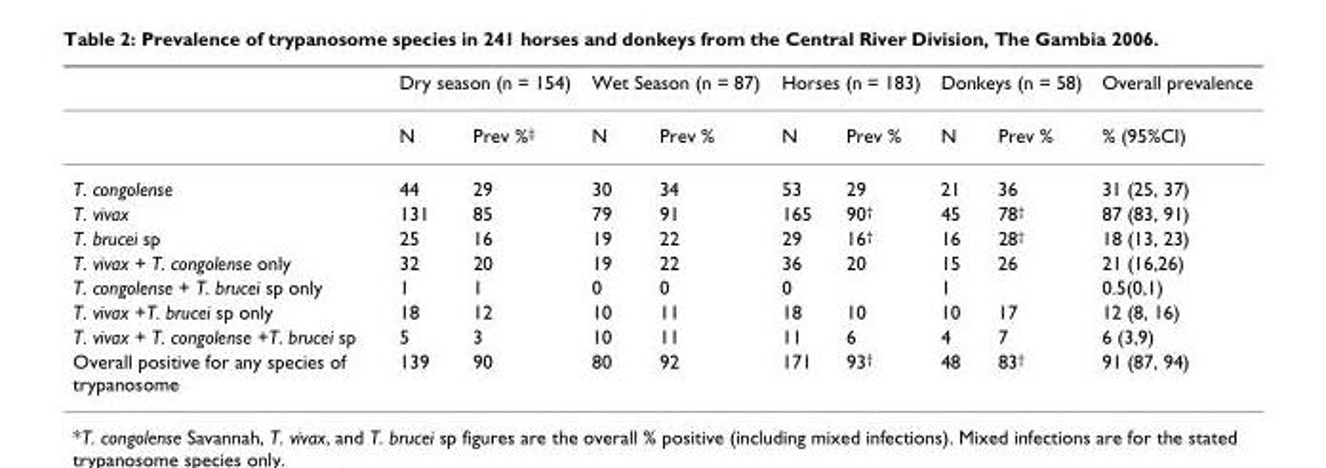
<table><thead><tr><td rowspan="2"></td><td colspan="2">Dry season (n = 154)</td><td colspan="2">Wet Season (n = 87)</td><td colspan="2">Horses (n = 183)</td><td colspan="2">Donkeys (n = 58)</td><td rowspan="2">Overall prevalence % (95%CI)</td></tr><tr><td>N</td><td>Prev %<sup>‡</sup></td><td>N</td><td>Prev %</td><td>N</td><td>Prev %</td><td>N</td><td>Prev %</td></tr></thead><tbody><tr><td>T. congolense</td><td>44</td><td>29</td><td>30</td><td>34</td><td>53</td><td>29</td><td>21</td><td>36</td><td>31 (25, 37)</td></tr><tr><td>T. vivax</td><td>131</td><td>85</td><td>79</td><td>91</td><td>165</td><td>90<sup>†</sup></td><td>45</td><td>78<sup>†</sup></td><td>87 (83, 91)</td></tr><tr><td>T. brucei sp</td><td>25</td><td>16</td><td>19</td><td>22</td><td>29</td><td>16<sup>†</sup></td><td>16</td><td>28<sup>†</sup></td><td>18 (13, 23)</td></tr><tr><td>T. vivax + T. congolense only</td><td>32</td><td>20</td><td>19</td><td>22</td><td>36</td><td>20</td><td>15</td><td>26</td><td>21 (16,26)</td></tr><tr><td>T. congolense + T. brucei sp only</td><td>1</td><td>1</td><td>0</td><td>0</td><td>0</td><td></td><td>1</td><td></td><td>0.5(0,1)</td></tr><tr><td>T. vivax +T. brucei sp only</td><td>18</td><td>12</td><td>10</td><td>11</td><td>18</td><td>10</td><td>10</td><td>17</td><td>12 (8, 16)</td></tr><tr><td>T. vivax + T. congolense +T. brucei sp</td><td>5</td><td>3</td><td>10</td><td>11</td><td>11</td><td>6</td><td>4</td><td>7</td><td>6 (3,9)</td></tr><tr><td>Overall positive for any species of trypanosome</td><td>139</td><td>90</td><td>80</td><td>92</td><td>171</td><td>93<sup>†</sup></td><td>48</td><td>83<sup>†</sup></td><td>91 (87, 94)</td></tr></tbody></table>